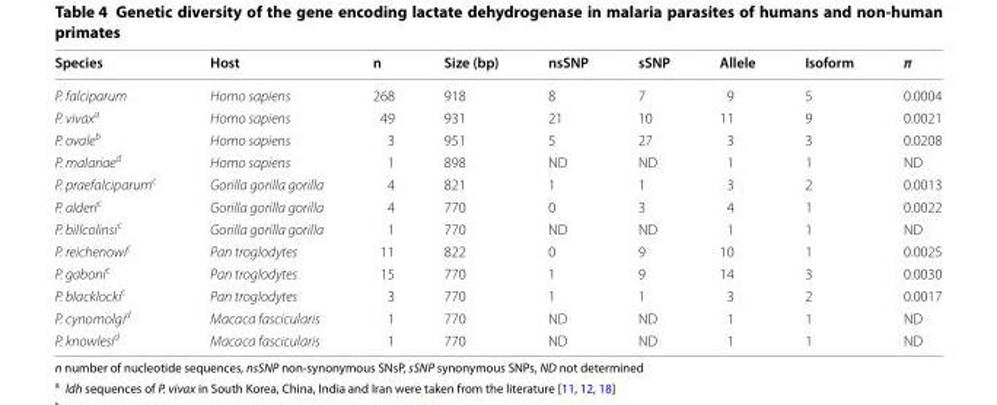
<table><thead><tr><td>Species</td><td>Host</td><td>n</td><td>Size (bp)</td><td>nsSNP</td><td>sSNP</td><td>Allele</td><td>Isoform</td><td>π</td></tr></thead><tbody><tr><td>P. falciparum</td><td>Homo sapiens</td><td>268</td><td>918</td><td>8</td><td>7</td><td>9</td><td>5</td><td>0.0004</td></tr><tr><td>P. vivax<sup>a</sup></td><td>Homo sapiens</td><td>49</td><td>931</td><td>21</td><td>10</td><td>11</td><td>9</td><td>0.0021</td></tr><tr><td>P. ovale<sup>b</sup></td><td>Homo sapiens</td><td>3</td><td>951</td><td>5</td><td>27</td><td>3</td><td>3</td><td>0.0208</td></tr><tr><td>P. malariae<sup>d</sup></td><td>Homo sapiens</td><td>1</td><td>898</td><td>ND</td><td>ND</td><td>1</td><td>1</td><td>ND</td></tr><tr><td>P. praefalciparum<sup>c</sup></td><td>Gorilla gorilla gorilla</td><td>4</td><td>821</td><td>1</td><td>1</td><td>3</td><td>2</td><td>0.0013</td></tr><tr><td>P. alderi<sup>c</sup></td><td>Gorilla gorilla gorilla</td><td>4</td><td>770</td><td>0</td><td>3</td><td>4</td><td>1</td><td>0.0022</td></tr><tr><td>P. billcolinsi<sup>c</sup></td><td>Gorilla gorilla gorilla</td><td>1</td><td>770</td><td>ND</td><td>ND</td><td>1</td><td>1</td><td>ND</td></tr><tr><td>P. reichenowi<sup>c</sup></td><td>Pan troglodytes</td><td>11</td><td>822</td><td>0</td><td>9</td><td>10</td><td>1</td><td>0.0025</td></tr><tr><td>P. gaboni<sup>c</sup></td><td>Pan troglodytes</td><td>15</td><td>770</td><td>1</td><td>9</td><td>14</td><td>3</td><td>0.0030</td></tr><tr><td>P. blacklocki<sup>c</sup></td><td>Pan troglodytes</td><td>3</td><td>770</td><td>1</td><td>1</td><td>3</td><td>2</td><td>0.0017</td></tr><tr><td>P. cynomolgi<sup>d</sup></td><td>Macaca fascicularis</td><td>1</td><td>770</td><td>ND</td><td>ND</td><td>1</td><td>1</td><td>ND</td></tr><tr><td>P. knowlesi<sup>d</sup></td><td>Macaca fascicularis</td><td>1</td><td>770</td><td>ND</td><td>ND</td><td>1</td><td>1</td><td>ND</td></tr></tbody></table>